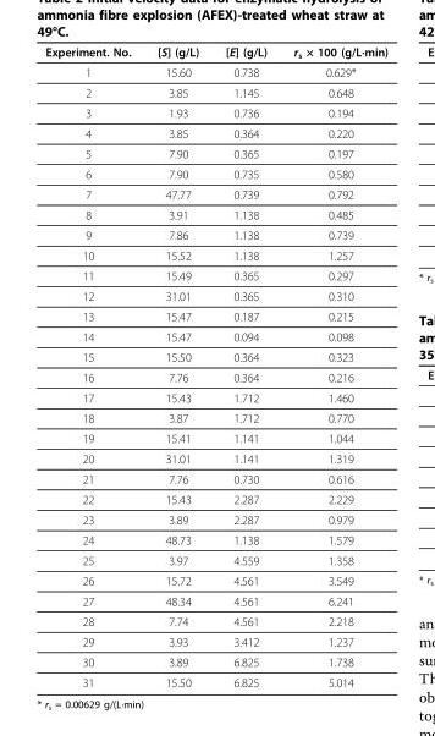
<table><thead><tr><td>Experiment. No.</td><td>[S] (g/L)</td><td>[E] (g/L)</td><td>r<sub>s</sub> × 100 (g/L·min)</td></tr></thead><tbody><tr><td>1</td><td>15.60</td><td>0.738</td><td>0.629*</td></tr><tr><td>2</td><td>3.85</td><td>1.145</td><td>0.648</td></tr><tr><td>3</td><td>1.93</td><td>0.736</td><td>0.194</td></tr><tr><td>4</td><td>3.85</td><td>0.364</td><td>0.220</td></tr><tr><td>5</td><td>7.90</td><td>0.365</td><td>0.197</td></tr><tr><td>6</td><td>7.90</td><td>0.735</td><td>0.580</td></tr><tr><td>7</td><td>47.77</td><td>0.739</td><td>0.792</td></tr><tr><td>8</td><td>3.91</td><td>1.138</td><td>0.485</td></tr><tr><td>9</td><td>7.86</td><td>1.138</td><td>0.739</td></tr><tr><td>10</td><td>15.52</td><td>1.138</td><td>1.257</td></tr><tr><td>11</td><td>15.49</td><td>0.365</td><td>0.297</td></tr><tr><td>12</td><td>31.01</td><td>0.365</td><td>0.310</td></tr><tr><td>13</td><td>15.47</td><td>0.187</td><td>0.215</td></tr><tr><td>14</td><td>15.47</td><td>0.094</td><td>0.098</td></tr><tr><td>15</td><td>15.50</td><td>0.364</td><td>0.323</td></tr><tr><td>16</td><td>7.76</td><td>0.364</td><td>0.216</td></tr><tr><td>17</td><td>15.43</td><td>1.712</td><td>1.460</td></tr><tr><td>18</td><td>3.87</td><td>1.712</td><td>0.770</td></tr><tr><td>19</td><td>15.41</td><td>1.141</td><td>1.044</td></tr><tr><td>20</td><td>31.01</td><td>1.141</td><td>1.319</td></tr><tr><td>21</td><td>7.76</td><td>0.730</td><td>0.616</td></tr><tr><td>22</td><td>15.43</td><td>2.287</td><td>2.229</td></tr><tr><td>23</td><td>3.89</td><td>2.287</td><td>0.979</td></tr><tr><td>24</td><td>48.73</td><td>1.138</td><td>1.579</td></tr><tr><td>25</td><td>3.97</td><td>4.559</td><td>1.358</td></tr><tr><td>26</td><td>15.72</td><td>4.561</td><td>3.549</td></tr><tr><td>27</td><td>48.34</td><td>4.561</td><td>6.241</td></tr><tr><td>28</td><td>7.74</td><td>4.561</td><td>2.218</td></tr><tr><td>29</td><td>3.93</td><td>3.412</td><td>1.237</td></tr><tr><td>30</td><td>3.89</td><td>6.825</td><td>1.738</td></tr><tr><td>31</td><td>15.50</td><td>6.825</td><td>5.014</td></tr></tbody></table>